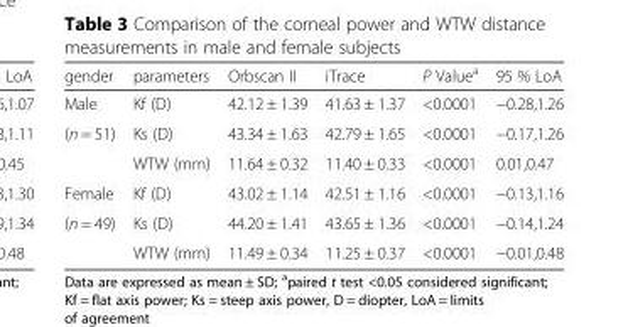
<table><thead><tr><td>gender</td><td>parameters</td><td>Orbscan II</td><td>iTrace</td><td>P Value<sup>a</sup></td><td>95 % LoA</td></tr></thead><tbody><tr><td>Male</td><td>Kf (D)</td><td>42.12 ± 1.39</td><td>41.63 ± 1.37</td><td>&lt;0.0001</td><td>−0.28,1.26</td></tr><tr><td rowspan="2">(n = 51)</td><td>Ks (D)</td><td>43.34 ± 1.63</td><td>42.79 ± 1.65</td><td>&lt;0.0001</td><td>−0.17,1.26</td></tr><tr><td>WTW (mm)</td><td>11.64 ± 0.32</td><td>11.40 ± 0.33</td><td>&lt;0.0001</td><td>0.01,0.47</td></tr><tr><td>Female</td><td>Kf (D)</td><td>43.02 ± 1.14</td><td>42.51 ± 1.16</td><td>&lt;0.0001</td><td>−0.13,1.16</td></tr><tr><td rowspan="2">(n = 49)</td><td>Ks (D)</td><td>44.20 ± 1.41</td><td>43.65 ± 1.36</td><td>&lt;0.0001</td><td>−0.14,1.24</td></tr><tr><td>WTW (mm)</td><td>11.49 ± 0.34</td><td>11.25 ± 0.37</td><td>&lt;0.0001</td><td>−0.01,0.48</td></tr></tbody></table>